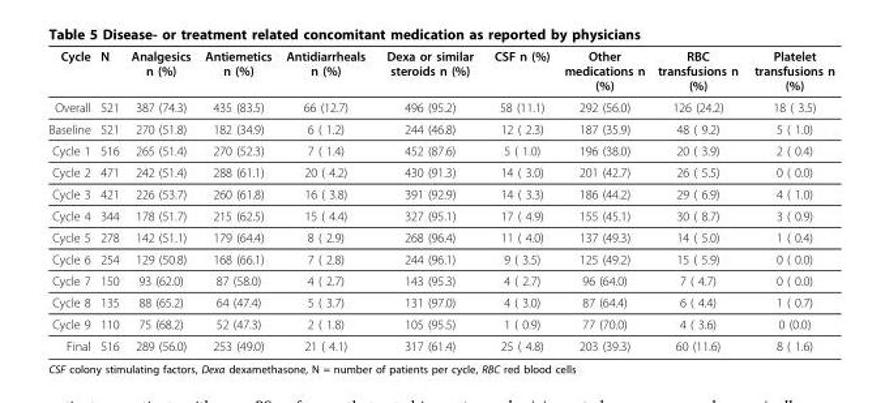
<table><thead><tr><td>Cycle</td><td>N</td><td>Analgesics n (%)</td><td>Antiemetics n (%)</td><td>Antidiarrheals n (%)</td><td>Dexa or similar steroids n (%)</td><td>CSF n (%)</td><td>Other medications n (%)</td><td>RBC transfusions n (%)</td><td>Platelet transfusions n (%)</td></tr></thead><tbody><tr><td>Overall</td><td>521</td><td>387 (74.3)</td><td>435 (83.5)</td><td>66 (12.7)</td><td>496 (95.2)</td><td>58 (11.1)</td><td>292 (56.0)</td><td>126 (24.2)</td><td>18 ( 3.5)</td></tr><tr><td>Baseline</td><td>521</td><td>270 (51.8)</td><td>182 (34.9)</td><td>6 ( 1.2)</td><td>244 (46.8)</td><td>12 ( 2.3)</td><td>187 (35.9)</td><td>48 ( 9.2)</td><td>5 ( 1.0)</td></tr><tr><td>Cycle 1</td><td>516</td><td>265 (51.4)</td><td>270 (52.3)</td><td>7 ( 1.4)</td><td>452 (87.6)</td><td>5 ( 1.0)</td><td>196 (38.0)</td><td>20 ( 3.9)</td><td>2 ( 0.4)</td></tr><tr><td>Cycle 2</td><td>471</td><td>242 (51.4)</td><td>288 (61.1)</td><td>20 ( 4.2)</td><td>430 (91.3)</td><td>14 ( 3.0)</td><td>201 (42.7)</td><td>26 ( 5.5)</td><td>0 ( 0.0)</td></tr><tr><td>Cycle 3</td><td>421</td><td>226 (53.7)</td><td>260 (61.8)</td><td>16 ( 3.8)</td><td>391 (92.9)</td><td>14 ( 3.3)</td><td>186 (44.2)</td><td>29 ( 6.9)</td><td>4 ( 1.0)</td></tr><tr><td>Cycle 4</td><td>344</td><td>178 (51.7)</td><td>215 (62.5)</td><td>15 ( 4.4)</td><td>327 (95.1)</td><td>17 ( 4.9)</td><td>155 (45.1)</td><td>30 ( 8.7)</td><td>3 ( 0.9)</td></tr><tr><td>Cycle 5</td><td>278</td><td>142 (51.1)</td><td>179 (64.4)</td><td>8 ( 2.9)</td><td>268 (96.4)</td><td>11 ( 4.0)</td><td>137 (49.3)</td><td>14 ( 5.0)</td><td>1 ( 0.4)</td></tr><tr><td>Cycle 6</td><td>254</td><td>129 (50.8)</td><td>168 (66.1)</td><td>7 ( 2.8)</td><td>244 (96.1)</td><td>9 ( 3.5)</td><td>125 (49.2)</td><td>15 ( 5.9)</td><td>0 ( 0.0)</td></tr><tr><td>Cycle 7</td><td>150</td><td>93 (62.0)</td><td>87 (58.0)</td><td>4 ( 2.7)</td><td>143 (95.3)</td><td>4 ( 2.7)</td><td>96 (64.0)</td><td>7 ( 4.7)</td><td>0 ( 0.0)</td></tr><tr><td>Cycle 8</td><td>135</td><td>88 (65.2)</td><td>64 (47.4)</td><td>5 ( 3.7)</td><td>131 (97.0)</td><td>4 ( 3.0)</td><td>87 (64.4)</td><td>6 ( 4.4)</td><td>1 ( 0.7)</td></tr><tr><td>Cycle 9</td><td>110</td><td>75 (68.2)</td><td>52 (47.3)</td><td>2 ( 1.8)</td><td>105 (95.5)</td><td>1 ( 0.9)</td><td>77 (70.0)</td><td>4 ( 3.6)</td><td>0 (0.0)</td></tr><tr><td>Final</td><td>516</td><td>289 (56.0)</td><td>253 (49.0)</td><td>21 ( 4.1)</td><td>317 (61.4)</td><td>25 ( 4.8)</td><td>203 (39.3)</td><td>60 (11.6)</td><td>8 ( 1.6)</td></tr></tbody></table>